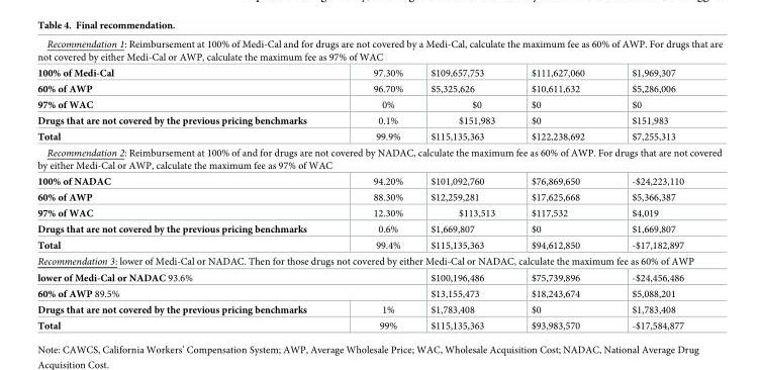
<table><tbody><tr><td colspan="5">Recommendation 1: Reimbursement at 100% of Medi-Cal and for drugs are not covered by a Medi-Cal, calculate the maximum fee as 60% of AWP. For drugs that are not covered by either Medi-Cal or AWP, calculate the maximum fee as 97% of WAC</td></tr><tr><td>100% of Medi-Cal</td><td>97.30%</td><td>$109,657,753</td><td>$111,627,060</td><td>$1,969,307</td></tr><tr><td>60% of AWP</td><td>96.70%</td><td>$5,325,626</td><td>$10,611,632</td><td>$5,286,006</td></tr><tr><td>97% of WAC</td><td>0%</td><td>$0</td><td>$0</td><td>$0</td></tr><tr><td>Drugs that are not covered by the previous pricing benchmarks</td><td>0.1%</td><td>$151,983</td><td>$0</td><td>$151,983</td></tr><tr><td>Total</td><td>99.9%</td><td>$115,135,363</td><td>$122,238,692</td><td>$7,255,313</td></tr><tr><td colspan="5">Recommendation 2: Reimbursement at 100% of and for drugs are not covered by NADAC, calculate the maximum fee as 60% of AWP. For drugs that are not covered by either Medi-Cal or AWP, calculate the maximum fee as 97% of WAC</td></tr><tr><td>100% of NADAC</td><td>94.20%</td><td>$101,092,760</td><td>$76,869,650</td><td>-$24,223,110</td></tr><tr><td>60% of AWP</td><td>88.30%</td><td>$12,259,281</td><td>$17,625,668</td><td>$5,366,387</td></tr><tr><td>97% of WAC</td><td>12.30%</td><td>$113,513</td><td>$117,532</td><td>$4,019</td></tr><tr><td>Drugs that are not covered by the previous pricing benchmarks</td><td>0.6%</td><td>$1,669,807</td><td>$0</td><td>$1,669,807</td></tr><tr><td>Total</td><td>99.4%</td><td>$115,135,363</td><td>$94,612,850</td><td>-$17,182,897</td></tr><tr><td colspan="5">Recommendation 3: lower of Medi-Cal or NADAC. Then for those drugs not covered by either Medi-Cal or NADAC, calculate the maximum fee as 60% of AWP</td></tr><tr><td colspan="2">lower of Medi-Cal or NADAC 93.6%</td><td>$100,196,486</td><td>$75,739,896</td><td>-$24,456,486</td></tr><tr><td colspan="2">60% of AWP 89.5%</td><td>$13,155,473</td><td>$18,243,674</td><td>$5,088,201</td></tr><tr><td>Drugs that are not covered by the previous pricing benchmarks</td><td>1%</td><td>$1,783,408</td><td>$0</td><td>$1,783,408</td></tr><tr><td>Total</td><td>99%</td><td>$115,135,363</td><td>$93,983,570</td><td>-$17,584,877</td></tr></tbody></table>